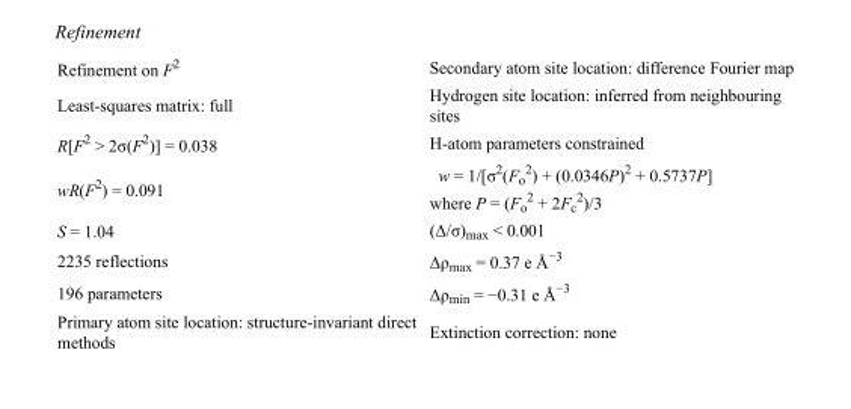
<table><tbody><tr><td>Refinement on F<sup>2</sup></td><td>Secondary atom site location: difference Fourier map</td></tr><tr><td>Least-squares matrix: full</td><td>Hydrogen site location: inferred from neighbouring sites</td></tr><tr><td>R[F<sup>2</sup> &gt; 2σ(F<sup>2</sup>)] = 0.038</td><td>H-atom parameters constrained</td></tr><tr><td>wR(F<sup>2</sup>) = 0.091</td><td>w = 1/[σ<sup>2</sup>(F<sub>o</sub> <sup>2</sup>) + (0.0346P)<sup>2</sup> + 0.5737P] where P = (F<sub>o</sub> <sup>2</sup> + 2F<sub>c</sub> <sup>2</sup>)/3</td></tr><tr><td>S = 1.04</td><td>(Δ/σ)<sub>max</sub> &lt; 0.001</td></tr><tr><td>2235 reflections</td><td>Δρ<sub>max</sub> = 0.37 e Å<sup>−3</sup></td></tr><tr><td>196 parameters</td><td>Δρ<sub>min</sub> = −0.31 e Å<sup>−3</sup></td></tr><tr><td>Primary atom site location: structure-invariant direct methods</td><td>Extinction correction: none</td></tr></tbody></table>